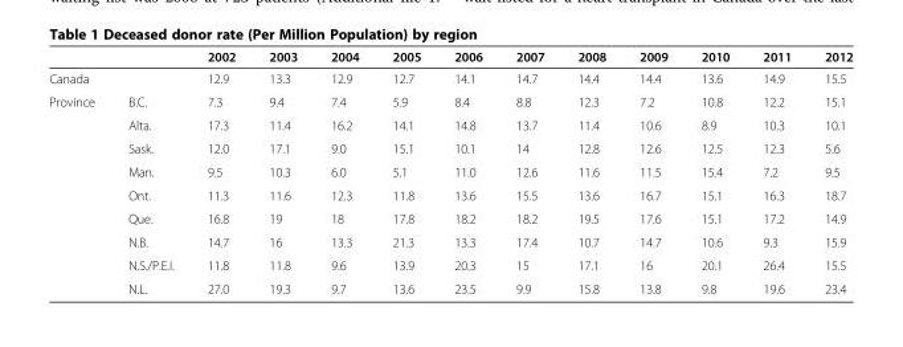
<table><thead><tr><td></td><td></td><td>2002</td><td>2003</td><td>2004</td><td>2005</td><td>2006</td><td>2007</td><td>2008</td><td>2009</td><td>2010</td><td>2011</td><td>2012</td></tr></thead><tbody><tr><td>Canada</td><td></td><td>12.9</td><td>13.3</td><td>12.9</td><td>12.7</td><td>14.1</td><td>14.7</td><td>14.4</td><td>14.4</td><td>13.6</td><td>14.9</td><td>15.5</td></tr><tr><td rowspan="9">Province</td><td>B.C.</td><td>7.3</td><td>9.4</td><td>7.4</td><td>5.9</td><td>8.4</td><td>8.8</td><td>12.3</td><td>7.2</td><td>10.8</td><td>12.2</td><td>15.1</td></tr><tr><td>Alta.</td><td>17.3</td><td>11.4</td><td>16.2</td><td>14.1</td><td>14.8</td><td>13.7</td><td>11.4</td><td>10.6</td><td>8.9</td><td>10.3</td><td>10.1</td></tr><tr><td>Sask.</td><td>12.0</td><td>17.1</td><td>9.0</td><td>15.1</td><td>10.1</td><td>14</td><td>12.8</td><td>12.6</td><td>12.5</td><td>12.3</td><td>5.6</td></tr><tr><td>Man.</td><td>9.5</td><td>10.3</td><td>6.0</td><td>5.1</td><td>11.0</td><td>12.6</td><td>11.6</td><td>11.5</td><td>15.4</td><td>7.2</td><td>9.5</td></tr><tr><td>Ont.</td><td>11.3</td><td>11.6</td><td>12.3</td><td>11.8</td><td>13.6</td><td>15.5</td><td>13.6</td><td>16.7</td><td>15.1</td><td>16.3</td><td>18.7</td></tr><tr><td>Que.</td><td>16.8</td><td>19</td><td>18</td><td>17.8</td><td>18.2</td><td>18.2</td><td>19.5</td><td>17.6</td><td>15.1</td><td>17.2</td><td>14.9</td></tr><tr><td>N.B.</td><td>14.7</td><td>16</td><td>13.3</td><td>21.3</td><td>13.3</td><td>17.4</td><td>10.7</td><td>14.7</td><td>10.6</td><td>9.3</td><td>15.9</td></tr><tr><td>N.S./P.E.I.</td><td>11.8</td><td>11.8</td><td>9.6</td><td>13.9</td><td>20.3</td><td>15</td><td>17.1</td><td>16</td><td>20.1</td><td>26.4</td><td>15.5</td></tr><tr><td>N.L.</td><td>27.0</td><td>19.3</td><td>9.7</td><td>13.6</td><td>23.5</td><td>9.9</td><td>15.8</td><td>13.8</td><td>9.8</td><td>19.6</td><td>23.4</td></tr></tbody></table>